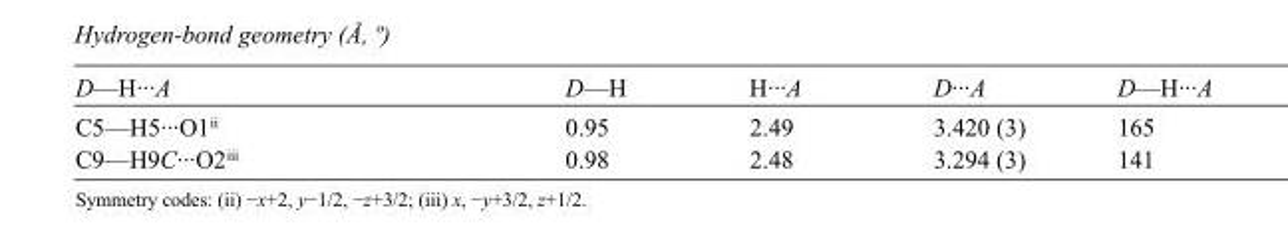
<table><tbody><tr><td>D—H···A</td><td>D—H</td><td>H···A</td><td>D···A</td><td>D—H···A</td></tr><tr><td>C5—H5···O1<sup>ii</sup></td><td>0.95</td><td>2.49</td><td>3.420 (3)</td><td>165</td></tr><tr><td>C9—H9C···O2<sup>iii</sup></td><td>0.98</td><td>2.48</td><td>3.294 (3)</td><td>141</td></tr></tbody></table>